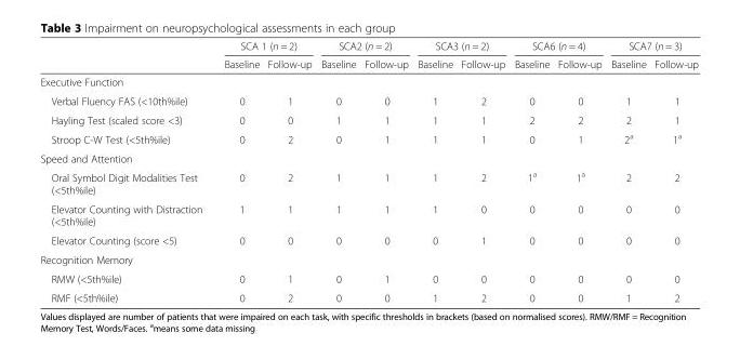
<table><thead><tr><td rowspan="2"></td><td colspan="2">SCA 1 (n = 2)</td><td colspan="2">SCA2 (n = 2)</td><td colspan="2">SCA3 (n = 2)</td><td colspan="2">SCA6 (n = 4)</td><td colspan="2">SCA7 (n = 3)</td></tr><tr><td>Baseline</td><td>Follow-up</td><td>Baseline</td><td>Follow-up</td><td>Baseline</td><td>Follow-up</td><td>Baseline</td><td>Follow-up</td><td>Baseline</td><td>Follow-up</td></tr></thead><tbody><tr><td colspan="11">Executive Function</td></tr><tr><td>Verbal Fluency FAS (&lt;10th%ile)</td><td>0</td><td>1</td><td>0</td><td>0</td><td>1</td><td>2</td><td>0</td><td>0</td><td>1</td><td>1</td></tr><tr><td>Hayling Test (scaled score &lt;3)</td><td>0</td><td>0</td><td>1</td><td>1</td><td>1</td><td>1</td><td>2</td><td>2</td><td>2</td><td>1</td></tr><tr><td>Stroop C-W Test (&lt;5th%ile)</td><td>0</td><td>2</td><td>0</td><td>1</td><td>1</td><td>1</td><td>0</td><td>1</td><td>2<sup>a</sup></td><td>1<sup>a</sup></td></tr><tr><td colspan="11">Speed and Attention</td></tr><tr><td>Oral Symbol Digit Modalities Test (&lt;5th%ile)</td><td>0</td><td>2</td><td>1</td><td>1</td><td>1</td><td>2</td><td>1<sup>a</sup></td><td>1<sup>a</sup></td><td>2</td><td>2</td></tr><tr><td>Elevator Counting with Distraction (&lt;5th%ile)</td><td>1</td><td>1</td><td>1</td><td>1</td><td>1</td><td>0</td><td>0</td><td>0</td><td>0</td><td>0</td></tr><tr><td>Elevator Counting (score &lt;5)</td><td>0</td><td>0</td><td>0</td><td>0</td><td>0</td><td>1</td><td>0</td><td>0</td><td>0</td><td>0</td></tr><tr><td colspan="11">Recognition Memory</td></tr><tr><td>RMW (&lt;5th%ile)</td><td>0</td><td>1</td><td>0</td><td>1</td><td>0</td><td>0</td><td>0</td><td>0</td><td>0</td><td>0</td></tr><tr><td>RMF (&lt;5th%ile)</td><td>0</td><td>2</td><td>0</td><td>0</td><td>1</td><td>2</td><td>0</td><td>0</td><td>1</td><td>2</td></tr></tbody></table>